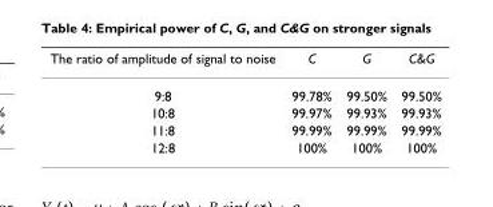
<table><thead><tr><td>The ratio of amplitude of signal to noise</td><td>C</td><td>G</td><td>C&amp;G</td></tr></thead><tbody><tr><td>9:8</td><td>99.78%</td><td>99.50%</td><td>99.50%</td></tr><tr><td>10:8</td><td>99.97%</td><td>99.93%</td><td>99.93%</td></tr><tr><td>11:8</td><td>99.99%</td><td>99.99%</td><td>99.99%</td></tr><tr><td>12:8</td><td>100%</td><td>100%</td><td>100%</td></tr></tbody></table>